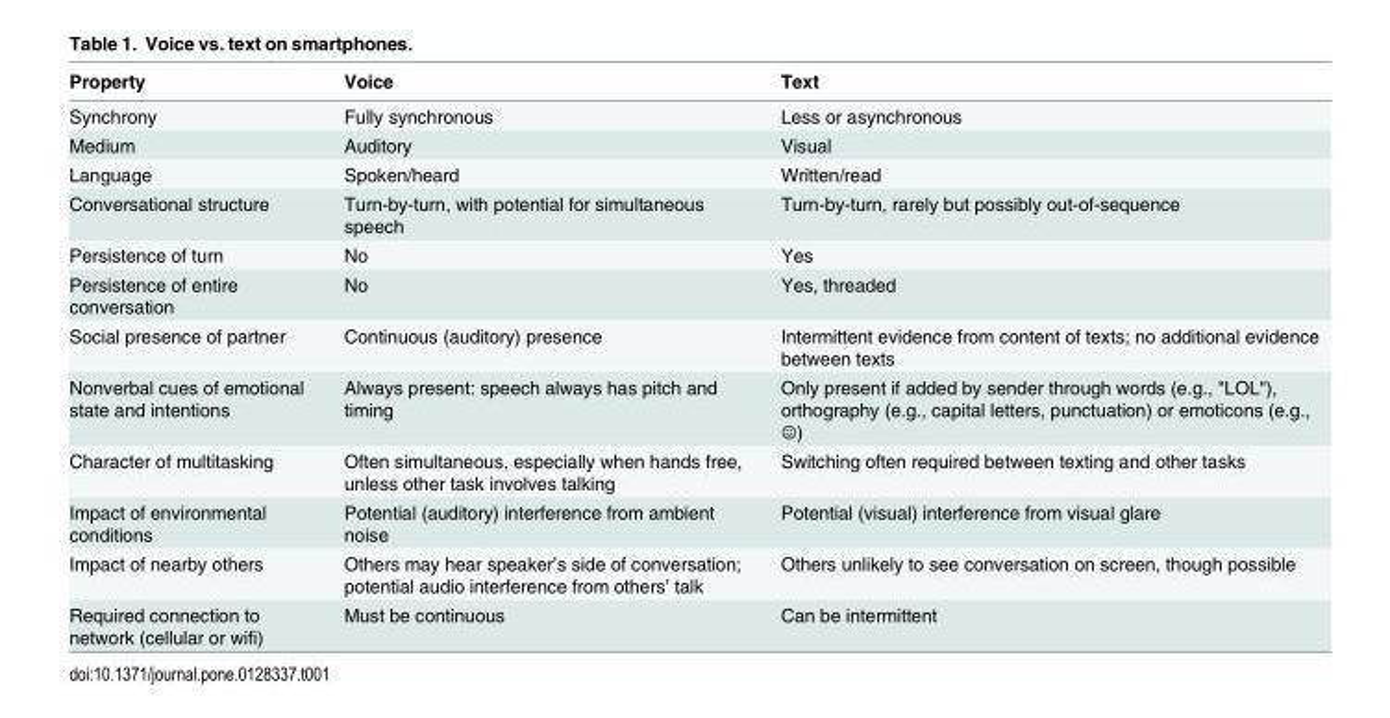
<table><thead><tr><td>Property</td><td>Voice</td><td>Text</td></tr></thead><tbody><tr><td>Synchrony</td><td>Fully synchronous</td><td>Less or asynchronous</td></tr><tr><td>Medium</td><td>Auditory</td><td>Visual</td></tr><tr><td>Language</td><td>Spoken/heard</td><td>Written/read</td></tr><tr><td>Conversational structure</td><td>Turn-by-turn, with potential for simultaneous speech</td><td>Turn-by-turn, rarely but possibly out-of-sequence</td></tr><tr><td>Persistence of turn</td><td>No</td><td>Yes</td></tr><tr><td>Persistence of entire conversation</td><td>No</td><td>Yes, threaded</td></tr><tr><td>Social presence of partner</td><td>Continuous (auditory) presence</td><td>Intermittent evidence from content of texts; no additional evidence between texts</td></tr><tr><td>Nonverbal cues of emotional state and intentions</td><td>Always present: speech always has pitch and timing</td><td>Only present if added by sender through words (e.g., &quot;LOL&quot;), orthography (e.g., capital letters, punctuation) or emoticons (e.g., ☺)</td></tr><tr><td>Character of multitasking</td><td>Often simultaneous, especially when hands free, unless other task involves talking</td><td>Switching often required between texting and other tasks</td></tr><tr><td>Impact of environmental conditions</td><td>Potential (auditory) interference from ambient noise</td><td>Potential (visual) interference from visual glare</td></tr><tr><td>Impact of nearby others</td><td>Others may hear speaker’s side of conversation; potential audio interference from others’ talk</td><td>Others unlikely to see conversation on screen, though possible</td></tr><tr><td>Required connection to network (cellular or wifi)</td><td>Must be continuous</td><td>Can be intermittent</td></tr></tbody></table>